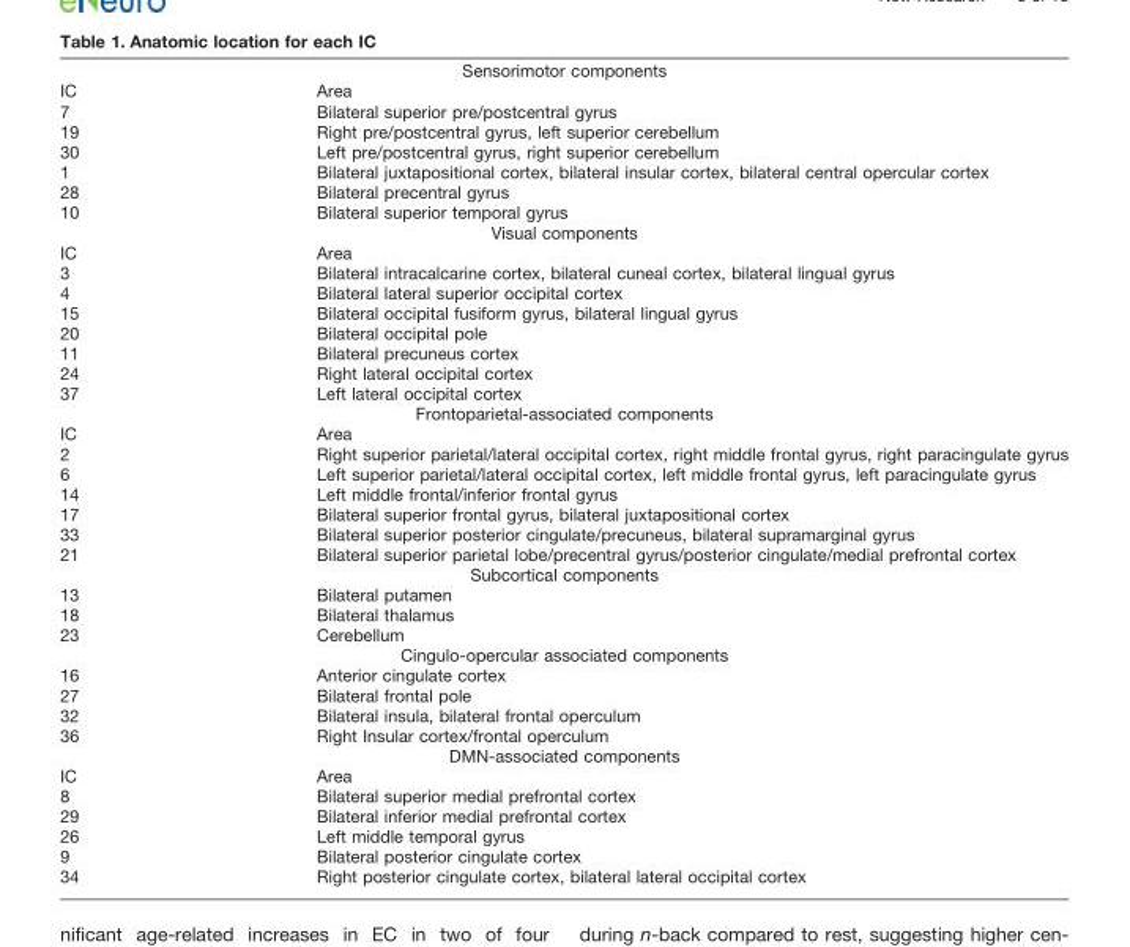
<table><thead><tr><td colspan="2">Sensorimotor components</td></tr><tr><td>IC</td><td>Area</td></tr></thead><tbody><tr><td>7</td><td>Bilateral superior pre/postcentral gyrus</td></tr><tr><td>19</td><td>Right pre/postcentral gyrus, left superior cerebellum</td></tr><tr><td>30</td><td>Left pre/postcentral gyrus, right superior cerebellum</td></tr><tr><td>1</td><td>Bilateral juxtapositional cortex, bilateral insular cortex, bilateral central opercular cortex</td></tr><tr><td>28</td><td>Bilateral precentral gyrus</td></tr><tr><td>10</td><td>Bilateral superior temporal gyrus</td></tr><tr><td colspan="2">Visual components</td></tr><tr><td>IC</td><td>Area</td></tr><tr><td>3</td><td>Bilateral intracalcarine cortex, bilateral cuneal cortex, bilateral lingual gyrus</td></tr><tr><td>4</td><td>Bilateral lateral superior occipital cortex</td></tr><tr><td>15</td><td>Bilateral occipital fusiform gyrus, bilateral lingual gyrus</td></tr><tr><td>20</td><td>Bilateral occipital pole</td></tr><tr><td>11</td><td>Bilateral precuneus cortex</td></tr><tr><td>24</td><td>Right lateral occipital cortex</td></tr><tr><td>37</td><td>Left lateral occipital cortex</td></tr><tr><td colspan="2">Frontoparietal-associated components</td></tr><tr><td>IC</td><td>Area</td></tr><tr><td>2</td><td>Right superior parietal/lateral occipital cortex, right middle frontal gyrus, right paracingulate gyrus</td></tr><tr><td>6</td><td>Left superior parietal/lateral occipital cortex, left middle frontal gyrus, left paracingulate gyrus</td></tr><tr><td>14</td><td>Left middle frontal/inferior frontal gyrus</td></tr><tr><td>17</td><td>Bilateral superior frontal gyrus, bilateral juxtapositional cortex</td></tr><tr><td>33</td><td>Bilateral superior posterior cingulate/precuneus, bilateral supramarginal gyrus</td></tr><tr><td>21</td><td>Bilateral superior parietal lobe/precentral gyrus/posterior cingulate/medial prefrontal cortex</td></tr><tr><td colspan="2">Subcortical components</td></tr><tr><td>13</td><td>Bilateral putamen</td></tr><tr><td>18</td><td>Bilateral thalamus</td></tr><tr><td>23</td><td>Cerebellum</td></tr><tr><td colspan="2">Cingulo-opercular associated components</td></tr><tr><td>16</td><td>Anterior cingulate cortex</td></tr><tr><td>27</td><td>Bilateral frontal pole</td></tr><tr><td>32</td><td>Bilateral insula, bilateral frontal operculum</td></tr><tr><td>36</td><td>Right Insular cortex/frontal operculum</td></tr><tr><td colspan="2">DMN-associated components</td></tr><tr><td>IC</td><td>Area</td></tr><tr><td>8</td><td>Bilateral superior medial prefrontal cortex</td></tr><tr><td>29</td><td>Bilateral inferior medial prefrontal cortex</td></tr><tr><td>26</td><td>Left middle temporal gyrus</td></tr><tr><td>9</td><td>Bilateral posterior cingulate cortex</td></tr><tr><td>34</td><td>Right posterior cingulate cortex, bilateral lateral occipital cortex</td></tr></tbody></table>